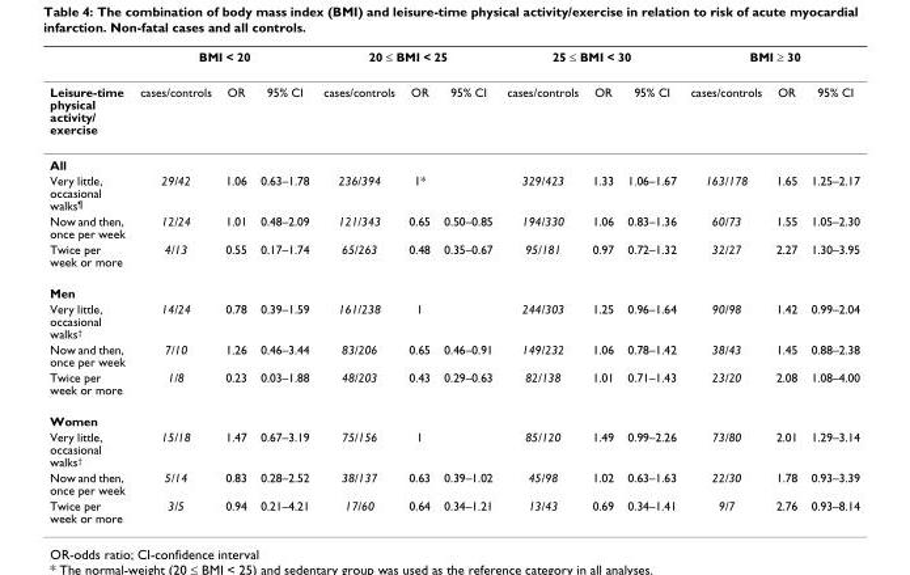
<table><thead><tr><td rowspan="2">Leisure-time physical activity/ exercise</td><td colspan="3">BMI &lt; 20</td><td colspan="3">20 ≤ BMI &lt; 25</td><td colspan="3">25 ≤ BMI &lt; 30</td><td colspan="3">BMI ≥ 30</td></tr><tr><td>cases/controls</td><td>OR</td><td>95% CI</td><td>cases/controls</td><td>OR</td><td>95% CI</td><td>cases/controls</td><td>OR</td><td>95% CI</td><td>cases/controls</td><td>OR</td><td>95% CI</td></tr></thead><tbody><tr><td colspan="13">All</td></tr><tr><td>Very little, occasional walks¶</td><td>29/42</td><td>1.06</td><td>0.63–1.78</td><td>236/394</td><td>1*</td><td></td><td>329/423</td><td>1.33</td><td>1.06–1.67</td><td>163/178</td><td>1.65</td><td>1.25–2.17</td></tr><tr><td>Now and then, once per week</td><td>12/24</td><td>1.01</td><td>0.48–2.09</td><td>121/343</td><td>0.65</td><td>0.50–0.85</td><td>194/330</td><td>1.06</td><td>0.83–1.36</td><td>60/73</td><td>1.55</td><td>1.05–2.30</td></tr><tr><td>Twice per week or more</td><td>4/13</td><td>0.55</td><td>0.17–1.74</td><td>65/263</td><td>0.48</td><td>0.35–0.67</td><td>95/181</td><td>0.97</td><td>0.72–1.32</td><td>32/27</td><td>2.27</td><td>1.30–3.95</td></tr><tr><td colspan="13">Men</td></tr><tr><td>Very little, occasional walks†</td><td>14/24</td><td>0.78</td><td>0.39–1.59</td><td>161/238</td><td>1</td><td></td><td>244/303</td><td>1.25</td><td>0.96–1.64</td><td>90/98</td><td>1.42</td><td>0.99–2.04</td></tr><tr><td>Now and then, once per week</td><td>7/10</td><td>1.26</td><td>0.46–3.44</td><td>83/206</td><td>0.65</td><td>0.46–0.91</td><td>149/232</td><td>1.06</td><td>0.78–1.42</td><td>38/43</td><td>1.45</td><td>0.88–2.38</td></tr><tr><td>Twice per week or more</td><td>1/8</td><td>0.23</td><td>0.03–1.88</td><td>48/203</td><td>0.43</td><td>0.29–0.63</td><td>82/138</td><td>1.01</td><td>0.71–1.43</td><td>23/20</td><td>2.08</td><td>1.08–4.00</td></tr><tr><td colspan="13">Women</td></tr><tr><td>Very little, occasional walks†</td><td>15/18</td><td>1.47</td><td>0.67–3.19</td><td>75/156</td><td>1</td><td></td><td>85/120</td><td>1.49</td><td>0.99–2.26</td><td>73/80</td><td>2.01</td><td>1.29–3.14</td></tr><tr><td>Now and then, once per week</td><td>5/14</td><td>0.83</td><td>0.28–2.52</td><td>38/137</td><td>0.63</td><td>0.39–1.02</td><td>45/98</td><td>1.02</td><td>0.63–1.63</td><td>22/30</td><td>1.78</td><td>0.93–3.39</td></tr><tr><td>Twice per week or more</td><td>3/5</td><td>0.94</td><td>0.21–4.21</td><td>17/60</td><td>0.64</td><td>0.34–1.21</td><td>13/43</td><td>0.69</td><td>0.34–1.41</td><td>9/7</td><td>2.76</td><td>0.93–8.14</td></tr></tbody></table>